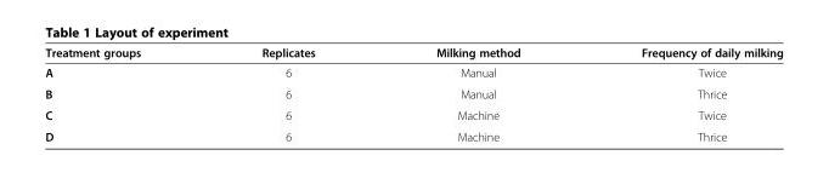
<table><thead><tr><td>Treatment groups</td><td>Replicates</td><td>Milking method</td><td>Frequency of daily milking</td></tr></thead><tbody><tr><td>A</td><td>6</td><td>Manual</td><td>Twice</td></tr><tr><td>B</td><td>6</td><td>Manual</td><td>Thrice</td></tr><tr><td>C</td><td>6</td><td>Machine</td><td>Twice</td></tr><tr><td>D</td><td>6</td><td>Machine</td><td>Thrice</td></tr></tbody></table>